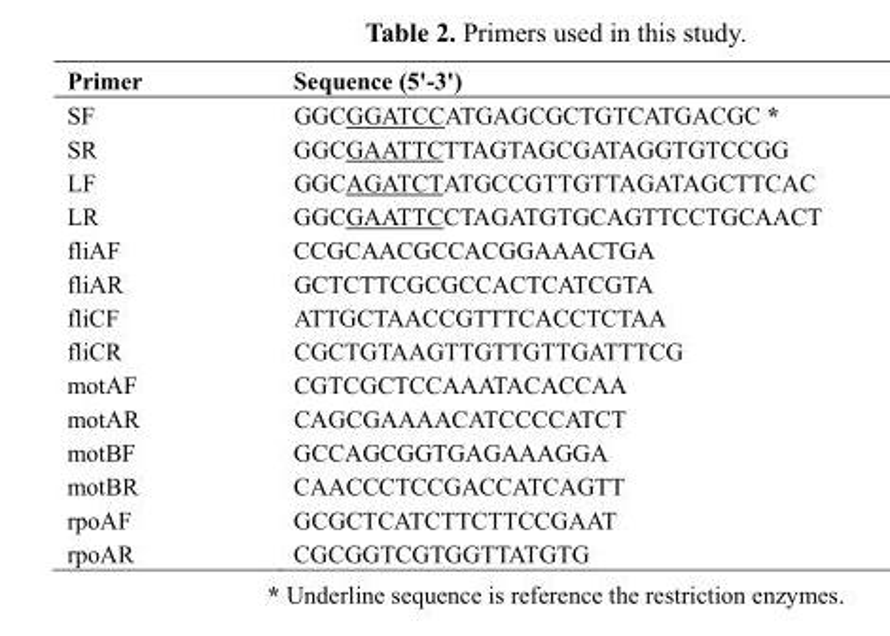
<table><thead><tr><td>Primer</td><td>Sequence (5&#x27;-3&#x27;)</td></tr></thead><tbody><tr><td>SF</td><td>GGCGGATCCATGAGCGCTGTCATGACGC *</td></tr><tr><td>SR</td><td>GGCGAATTCTTAGTAGCGATAGGTGTCCGG</td></tr><tr><td>LF</td><td>GGCAGATCTATGCCGTTGTTAGATAGCTTCAC</td></tr><tr><td>LR</td><td>GGCGAATTCCTAGATGTGCAGTTCCTGCAACT</td></tr><tr><td>fliAF</td><td>CCGCAACGCCACGGAAACTGA</td></tr><tr><td>fliAR</td><td>GCTCTTCGCGCCACTCATCGTA</td></tr><tr><td>fliCF</td><td>ATTGCTAACCGTTTCACCTCTAA</td></tr><tr><td>fliCR</td><td>CGCTGTAAGTTGTTGTTGATTTCG</td></tr><tr><td>motAF</td><td>CGTCGCTCCAAATACACCAA</td></tr><tr><td>motAR</td><td>CAGCGAAAACATCCCCATCT</td></tr><tr><td>motBF</td><td>GCCAGCGGTGAGAAAGGA</td></tr><tr><td>motBR</td><td>CAACCCTCCGACCATCAGTT</td></tr><tr><td>rpoAF</td><td>GCGCTCATCTTCTTCCGAAT</td></tr><tr><td>rpoAR</td><td>CGCGGTCGTGGTTATGTG</td></tr></tbody></table>